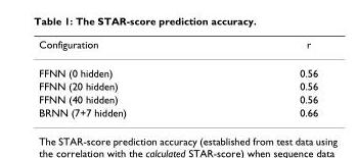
<table><thead><tr><td>Configuration</td><td>r</td></tr></thead><tbody><tr><td>FFNN (0 hidden)</td><td>0.56</td></tr><tr><td>FFNN (20 hidden)</td><td>0.56</td></tr><tr><td>FFNN (40 hidden)</td><td>0.56</td></tr><tr><td>BRNN (7+7 hidden)</td><td>0.66</td></tr></tbody></table>